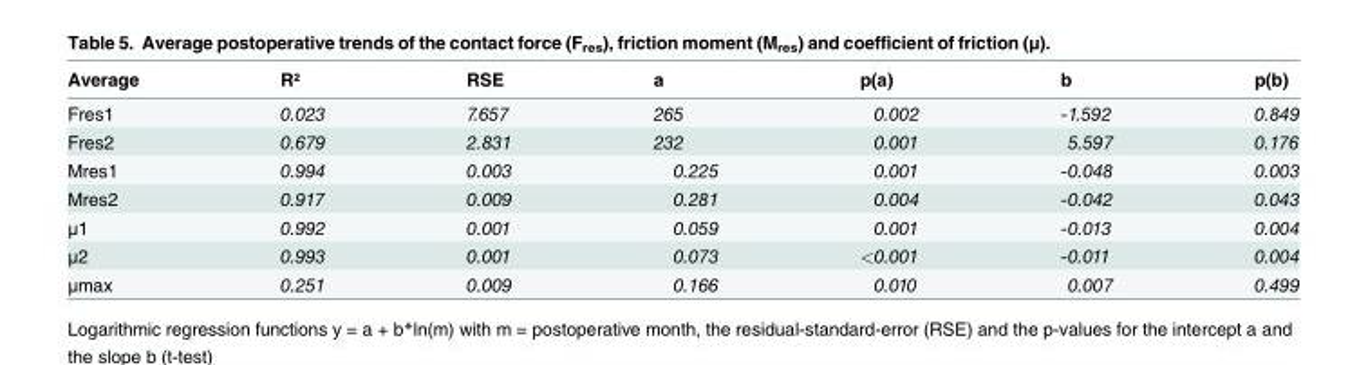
<table><thead><tr><td>Average</td><td>R²</td><td>RSE</td><td>a</td><td>p(a)</td><td>b</td><td>p(b)</td></tr></thead><tbody><tr><td>Fres1</td><td>0.023</td><td>7.657</td><td>265</td><td>0.002</td><td>-1.592</td><td>0.849</td></tr><tr><td>Fres2</td><td>0.679</td><td>2.831</td><td>232</td><td>0.001</td><td>5.597</td><td>0.176</td></tr><tr><td>Mres1</td><td>0.994</td><td>0.003</td><td>0.225</td><td>0.001</td><td>-0.048</td><td>0.003</td></tr><tr><td>Mres2</td><td>0.917</td><td>0.009</td><td>0.281</td><td>0.004</td><td>-0.042</td><td>0.043</td></tr><tr><td>μ1</td><td>0.992</td><td>0.001</td><td>0.059</td><td>0.001</td><td>-0.013</td><td>0.004</td></tr><tr><td>μ2</td><td>0.993</td><td>0.001</td><td>0.073</td><td>&lt;0.001</td><td>-0.011</td><td>0.004</td></tr><tr><td>μmax</td><td>0.251</td><td>0.009</td><td>0.166</td><td>0.010</td><td>0.007</td><td>0.499</td></tr></tbody></table>